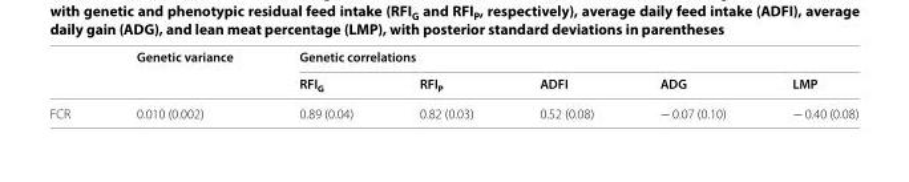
<table><thead><tr><td rowspan="2"></td><td rowspan="2">Genetic variance</td><td colspan="5">Genetic correlations</td></tr><tr><td>RFI<sub>G</sub></td><td>RFI<sub>P</sub></td><td>ADFI</td><td>ADG</td><td>LMP</td></tr></thead><tbody><tr><td>FCR</td><td>0.010 (0.002)</td><td>0.89 (0.04)</td><td>0.82 (0.03)</td><td>0.52 (0.08)</td><td>− 0.07 (0.10)</td><td>− 0.40 (0.08)</td></tr></tbody></table>